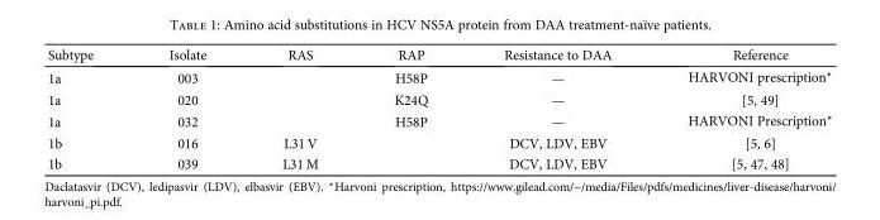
<table><thead><tr><td>Subtype</td><td>Isolate</td><td>RAS</td><td>RAP</td><td>Resistance to DAA</td><td>Reference</td></tr></thead><tbody><tr><td>1a</td><td>003</td><td></td><td>H58P</td><td>—</td><td>HARVONI prescription∗</td></tr><tr><td>1a</td><td>020</td><td></td><td>K24Q</td><td>—</td><td>[5, 49]</td></tr><tr><td>1a</td><td>032</td><td></td><td>H58P</td><td>—</td><td>HARVONI Prescription∗</td></tr><tr><td>1b</td><td>016</td><td>L31 V</td><td></td><td>DCV, LDV, EBV</td><td>[5, 6]</td></tr><tr><td>1b</td><td>039</td><td>L31 M</td><td></td><td>DCV, LDV, EBV</td><td>[5, 47, 48]</td></tr></tbody></table>